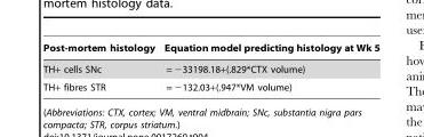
<table><thead><tr><td>Post-mortem histology</td><td>Equation model predicting histology at Wk 5</td></tr></thead><tbody><tr><td>TH+ cells SNc</td><td>= −33198.18+(.829*CTX volume)</td></tr><tr><td>TH+ fibres STR</td><td>= −132.03+(.947*VM volume)</td></tr></tbody></table>